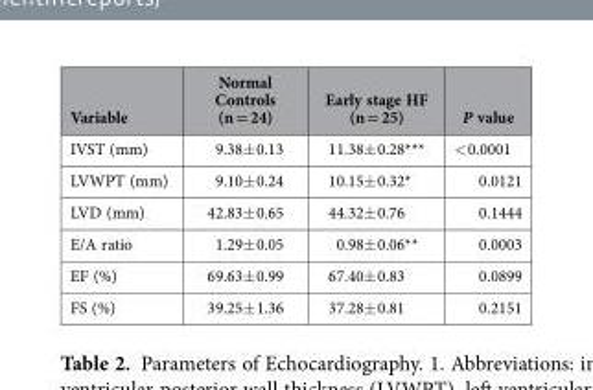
<table><thead><tr><td>Variable</td><td>Normal Controls (n = 24)</td><td>Early stage HF (n = 25)</td><td>P value</td></tr></thead><tbody><tr><td>IVST (mm)</td><td>9.38± 0.13</td><td>11.38± 0.28***</td><td>&lt; 0.0001</td></tr><tr><td>LVWPT (mm)</td><td>9.10± 0.24</td><td>10.15± 0.32*</td><td>0.0121</td></tr><tr><td>LVD (mm)</td><td>42.83± 0.65</td><td>44.32± 0.76</td><td>0.1444</td></tr><tr><td>E/A ratio</td><td>1.29± 0.05</td><td>0.98± 0.06**</td><td>0.0003</td></tr><tr><td>EF (%)</td><td>69.63± 0.99</td><td>67.40± 0.83</td><td>0.0899</td></tr><tr><td>FS (%)</td><td>39.25± 1.36</td><td>37.28± 0.81</td><td>0.2151</td></tr></tbody></table>